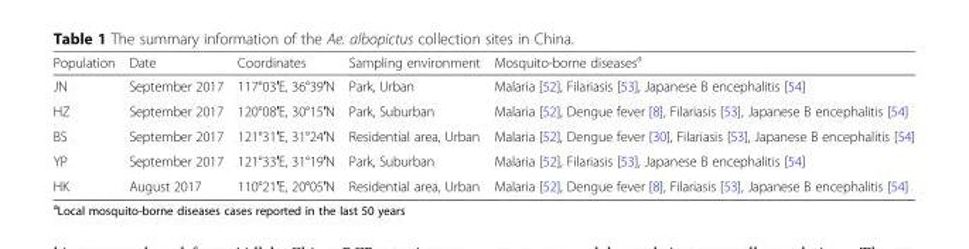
<table><thead><tr><td>Population</td><td>Date</td><td>Coordinates</td><td>Sampling environment</td><td>Mosquito-borne diseases<sup>a</sup></td></tr></thead><tbody><tr><td>JN</td><td>September 2017</td><td>117°03′E, 36°39′N</td><td>Park, Urban</td><td>Malaria [52], Filariasis [53], Japanese B encephalitis [54]</td></tr><tr><td>HZ</td><td>September 2017</td><td>120°08′E, 30°15′N</td><td>Park, Suburban</td><td>Malaria [52], Dengue fever [8], Filariasis [53], Japanese B encephalitis [54]</td></tr><tr><td>BS</td><td>September 2017</td><td>121°31′E, 31°24′N</td><td>Residential area, Urban</td><td>Malaria [52], Dengue fever [30], Filariasis [53], Japanese B encephalitis [54]</td></tr><tr><td>YP</td><td>September 2017</td><td>121°33′E, 31°19′N</td><td>Park, Suburban</td><td>Malaria [52], Filariasis [53], Japanese B encephalitis [54]</td></tr><tr><td>HK</td><td>August 2017</td><td>110°21′E, 20°05′N</td><td>Residential area, Urban</td><td>Malaria [52], Dengue fever [8], Filariasis [53], Japanese B encephalitis [54]</td></tr></tbody></table>